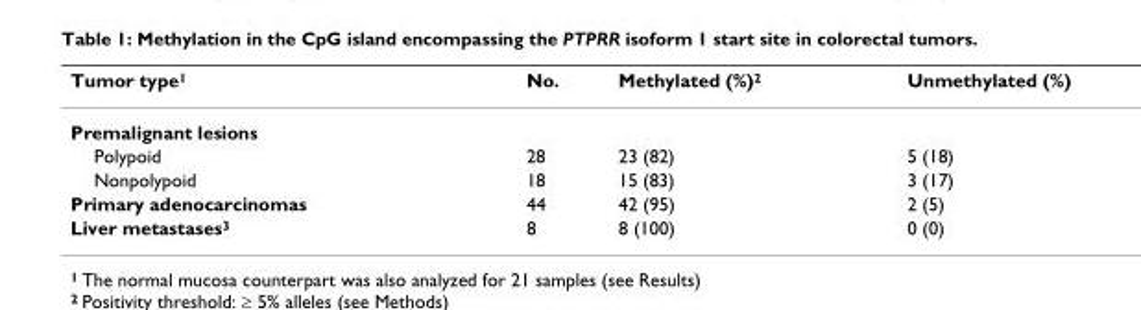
<table><thead><tr><td>Tumor type<sup>1</sup></td><td>No.</td><td>Methylated (%)<sup>2</sup></td><td>Unmethylated (%)</td></tr></thead><tbody><tr><td colspan="4">Premalignant lesions</td></tr><tr><td>Polypoid</td><td>28</td><td>23 (82)</td><td>5 (18)</td></tr><tr><td>Nonpolypoid</td><td>18</td><td>15 (83)</td><td>3 (17)</td></tr><tr><td>Primary adenocarcinomas</td><td>44</td><td>42 (95)</td><td>2 (5)</td></tr><tr><td>Liver metastases<sup>3</sup></td><td>8</td><td>8 (100)</td><td>0 (0)</td></tr></tbody></table>